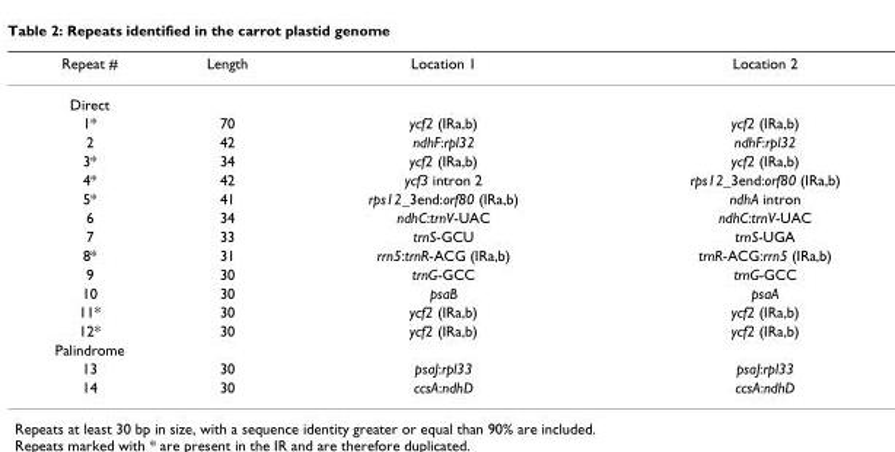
<table><thead><tr><td>Repeat #</td><td>Length</td><td>Location 1</td><td>Location 2</td></tr></thead><tbody><tr><td colspan="4">Direct</td></tr><tr><td>1*</td><td>70</td><td>ycf2 (IRa,b)</td><td>ycf2 (IRa,b)</td></tr><tr><td>2</td><td>42</td><td>ndhF:rpl32</td><td>ndhF:rpl32</td></tr><tr><td>3*</td><td>34</td><td>ycf2 (IRa,b)</td><td>ycf2 (IRa,b)</td></tr><tr><td>4*</td><td>42</td><td>ycf3 intron 2</td><td>rps12_3end:orf80 (IRa,b)</td></tr><tr><td>5*</td><td>41</td><td>rps12_3end:orf80 (IRa,b)</td><td>ndhA intron</td></tr><tr><td>6</td><td>34</td><td>ndhC:trnV-UAC</td><td>ndhC:trnV-UAC</td></tr><tr><td>7</td><td>33</td><td>trnS-GCU</td><td>trnS-UGA</td></tr><tr><td>8*</td><td>31</td><td>rrn5:trnR-ACG (IRa,b)</td><td>trnR-ACG:rrn5 (IRa,b)</td></tr><tr><td>9</td><td>30</td><td>trnG-GCC</td><td>trnG-GCC</td></tr><tr><td>10</td><td>30</td><td>psaB</td><td>psaA</td></tr><tr><td>11*</td><td>30</td><td>ycf2 (IRa,b)</td><td>ycf2 (IRa,b)</td></tr><tr><td>12*</td><td>30</td><td>ycf2 (IRa,b)</td><td>ycf2 (IRa,b)</td></tr><tr><td colspan="4">Palindrome</td></tr><tr><td>13</td><td>30</td><td>psaJ:rpl33</td><td>psaJ:rpl33</td></tr><tr><td>14</td><td>30</td><td>ccsA:ndhD</td><td>ccsA:ndhD</td></tr></tbody></table>